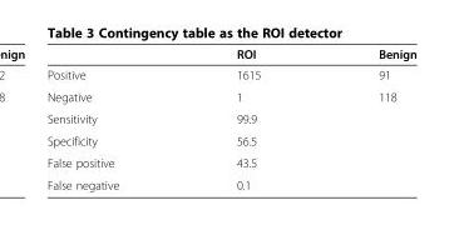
<table><thead><tr><td></td><td>ROI</td><td>Benign</td></tr></thead><tbody><tr><td>Positive</td><td>1615</td><td>91</td></tr><tr><td>Negative</td><td>1</td><td>118</td></tr><tr><td>Sensitivity</td><td colspan="2">99.9</td></tr><tr><td>Specificity</td><td colspan="2">56.5</td></tr><tr><td>False positive</td><td colspan="2">43.5</td></tr><tr><td>False negative</td><td colspan="2">0.1</td></tr></tbody></table>